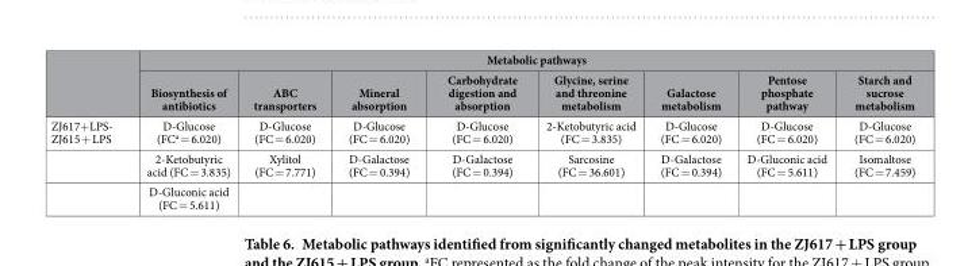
<table><thead><tr><td rowspan="2"></td><td colspan="8">Metabolic pathways</td></tr><tr><td>Biosynthesis of antibiotics</td><td>ABC transporters</td><td>Mineral absorption</td><td>Carbohydrate digestion and absorption</td><td>Glycine, serine and threonine metabolism</td><td>Galactose metabolism</td><td>Pentose phosphate pathway</td><td>Starch and sucrose metabolism</td></tr></thead><tbody><tr><td rowspan="3">ZJ617+ LPS- ZJ615 + LPS</td><td>D-Glucose (FC<sup>a</sup> = 6.020)</td><td>D-Glucose (FC = 6.020)</td><td>D-Glucose (FC = 6.020)</td><td>D-Glucose (FC = 6.020)</td><td>2-Ketobutyric acid (FC = 3.835)</td><td>D-Glucose (FC = 6.020)</td><td>D-Glucose (FC = 6.020)</td><td>D-Glucose (FC = 6.020)</td></tr><tr><td>2-Ketobutyric acid (FC = 3.835)</td><td>Xylitol (FC = 7.771)</td><td>D-Galactose (FC = 0.394)</td><td>D-Galactose (FC = 0.394)</td><td>Sarcosine (FC = 36.601)</td><td>D-Galactose (FC = 0.394)</td><td>D-Gluconic acid (FC = 5.611)</td><td>Isomaltose (FC = 7.459)</td></tr><tr><td>D-Gluconic acid (FC = 5.611)</td><td></td><td></td><td></td><td></td><td></td><td></td><td></td></tr></tbody></table>